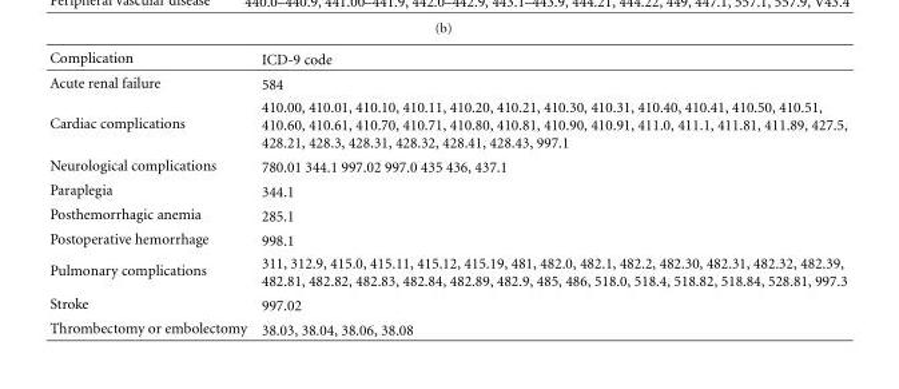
<table><thead><tr><td>Complication</td><td>ICD-9 code</td></tr></thead><tbody><tr><td>Acute renal failure</td><td>584</td></tr><tr><td>Cardiac complications</td><td>410.00, 410.01, 410.10, 410.11, 410.20, 410.21, 410.30, 410.31, 410.40, 410.41, 410.50, 410.51, 410.60, 410.61, 410.70, 410.71, 410.80, 410.81, 410.90, 410.91, 411.0, 411.1, 411.81, 411.89, 427.5, 428.21, 428.3, 428.31, 428.32, 428.41, 428.43, 997.1</td></tr><tr><td>Neurological complications</td><td>780.01 344.1 997.02 997.0 435 436, 437.1</td></tr><tr><td>Paraplegia</td><td>344.1</td></tr><tr><td>Posthemorrhagic anemia</td><td>285.1</td></tr><tr><td>Postoperative hemorrhage</td><td>998.1</td></tr><tr><td>Pulmonary complications</td><td>311, 312.9, 415.0, 415.11, 415.12, 415.19, 481, 482.0, 482.1, 482.2, 482.30, 482.31, 482.32, 482.39, 482.81, 482.82, 482.83, 482.84, 482.89, 482.9, 485, 486, 518.0, 518.4, 518.82, 518.84, 528.81, 997.3</td></tr><tr><td>Stroke</td><td>997.02</td></tr><tr><td>Thrombectomy or embolectomy</td><td>38.03, 38.04, 38.06, 38.08</td></tr></tbody></table>